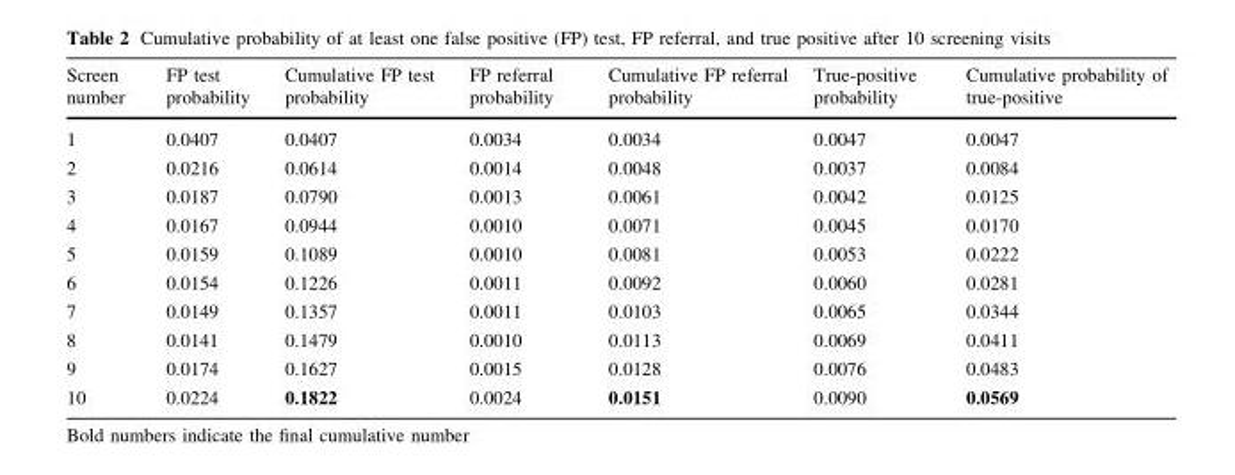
<table><thead><tr><td>Screen number</td><td>FP test probability</td><td>Cumulative FP test probability</td><td>FP referral probability</td><td>Cumulative FP referral probability</td><td>True-positive probability</td><td>Cumulative probability of true-positive</td></tr></thead><tbody><tr><td>1</td><td>0.0407</td><td>0.0407</td><td>0.0034</td><td>0.0034</td><td>0.0047</td><td>0.0047</td></tr><tr><td>2</td><td>0.0216</td><td>0.0614</td><td>0.0014</td><td>0.0048</td><td>0.0037</td><td>0.0084</td></tr><tr><td>3</td><td>0.0187</td><td>0.0790</td><td>0.0013</td><td>0.0061</td><td>0.0042</td><td>0.0125</td></tr><tr><td>4</td><td>0.0167</td><td>0.0944</td><td>0.0010</td><td>0.0071</td><td>0.0045</td><td>0.0170</td></tr><tr><td>5</td><td>0.0159</td><td>0.1089</td><td>0.0010</td><td>0.0081</td><td>0.0053</td><td>0.0222</td></tr><tr><td>6</td><td>0.0154</td><td>0.1226</td><td>0.0011</td><td>0.0092</td><td>0.0060</td><td>0.0281</td></tr><tr><td>7</td><td>0.0149</td><td>0.1357</td><td>0.0011</td><td>0.0103</td><td>0.0065</td><td>0.0344</td></tr><tr><td>8</td><td>0.0141</td><td>0.1479</td><td>0.0010</td><td>0.0113</td><td>0.0069</td><td>0.0411</td></tr><tr><td>9</td><td>0.0174</td><td>0.1627</td><td>0.0015</td><td>0.0128</td><td>0.0076</td><td>0.0483</td></tr><tr><td>10</td><td>0.0224</td><td>0.1822</td><td>0.0024</td><td>0.0151</td><td>0.0090</td><td>0.0569</td></tr></tbody></table>